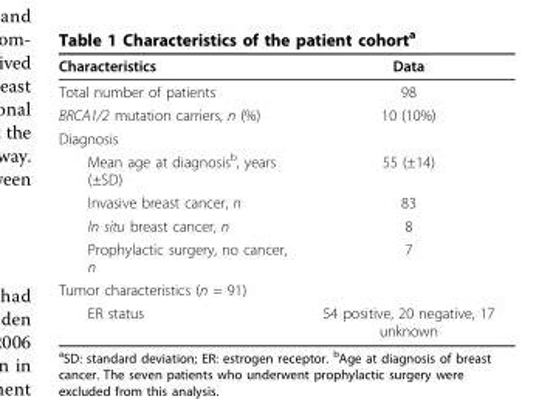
<table><thead><tr><td>Characteristics</td><td>Data</td></tr></thead><tbody><tr><td>Total number of patients</td><td>98</td></tr><tr><td>BRCA1/2 mutation carriers, n (%)</td><td>10 (10%)</td></tr><tr><td colspan="2">Diagnosis</td></tr><tr><td>Mean age at diagnosis<sup>b</sup>, years (±SD)</td><td>55 (±14)</td></tr><tr><td>Invasive breast cancer, n</td><td>83</td></tr><tr><td>In situ breast cancer, n</td><td>8</td></tr><tr><td>Prophylactic surgery, no cancer, n</td><td>7</td></tr><tr><td colspan="2">Tumor characteristics (n = 91)</td></tr><tr><td>ER status</td><td>54 positive, 20 negative, 17 unknown</td></tr></tbody></table>